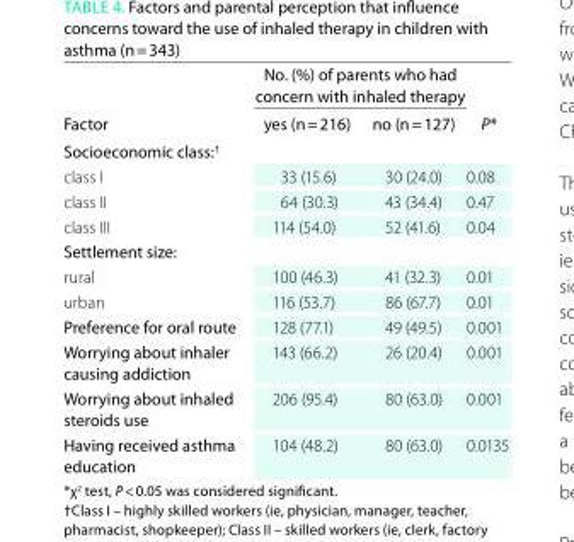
<table><thead><tr><td rowspan="2">Factor</td><td colspan="2">no. (%) of parents who had concern with inhaled therapy</td><td rowspan="2">P*</td></tr><tr><td>yes (n = 216)</td><td>no (n = 127)</td></tr></thead><tbody><tr><td colspan="4">Socioeconomic class:<sup>†</sup></td></tr><tr><td>class I</td><td>33 (15.6)</td><td>30 (24.0)</td><td>0.08</td></tr><tr><td>class II</td><td>64 (30.3)</td><td>43 (34.4)</td><td>0.47</td></tr><tr><td>class III</td><td>114 (54.0)</td><td>52 (41.6)</td><td>0.04</td></tr><tr><td colspan="4">Settlement size:</td></tr><tr><td>rural</td><td>100 (46.3)</td><td>41 (32.3)</td><td>0.01</td></tr><tr><td>urban</td><td>116 (53.7)</td><td>86 (67.7)</td><td>0.01</td></tr><tr><td>Preference for oral route</td><td>128 (77.1)</td><td>49 (49.5)</td><td>0.001</td></tr><tr><td>Worrying about inhaler causing addiction</td><td>143 (66.2)</td><td>26 (20.4)</td><td>0.001</td></tr><tr><td>Worrying about inhaled steroids use</td><td>206 (95.4)</td><td>80 (63.0)</td><td>0.001</td></tr><tr><td>Having received asthma education</td><td>104 (48.2)</td><td>80 (63.0)</td><td>0.0135</td></tr></tbody></table>